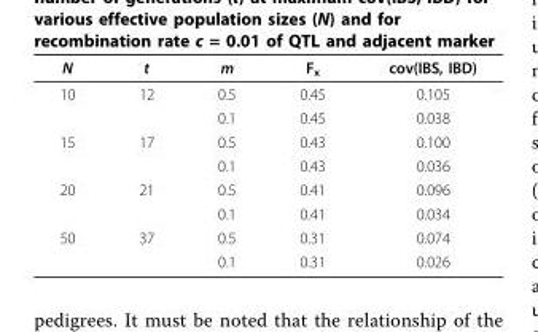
<table><thead><tr><td>N</td><td>t</td><td>m</td><td>F<sub>x</sub></td><td>cov(IBS, IBD)</td></tr></thead><tbody><tr><td rowspan="2">10</td><td>12</td><td>0.5</td><td>0.45</td><td>0.105</td></tr><tr><td></td><td>0.1</td><td>0.45</td><td>0.038</td></tr><tr><td rowspan="2">15</td><td>17</td><td>0.5</td><td>0.43</td><td>0.100</td></tr><tr><td></td><td>0.1</td><td>0.43</td><td>0.036</td></tr><tr><td rowspan="2">20</td><td>21</td><td>0.5</td><td>0.41</td><td>0.096</td></tr><tr><td></td><td>0.1</td><td>0.41</td><td>0.034</td></tr><tr><td rowspan="2">50</td><td>37</td><td>0.5</td><td>0.31</td><td>0.074</td></tr><tr><td></td><td>0.1</td><td>0.31</td><td>0.026</td></tr></tbody></table>